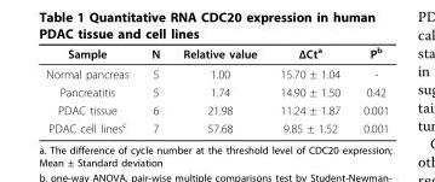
<table><thead><tr><td>Sample</td><td>N</td><td>Relative value</td><td>ΔCt<sup>a</sup></td><td>P<sup>b</sup></td></tr></thead><tbody><tr><td>Normal pancreas</td><td>5</td><td>1.00</td><td>15.70 ± 1.04</td><td>-</td></tr><tr><td>Pancreatitis</td><td>5</td><td>1.74</td><td>14.90 ± 1.50</td><td>0.42</td></tr><tr><td>PDAC tissue</td><td>6</td><td>21.98</td><td>11.24 ± 1.87</td><td>0.001</td></tr><tr><td>PDAC cell lines<sup>c</sup></td><td>7</td><td>57.68</td><td>9.85 ± 1.52</td><td>0.001</td></tr></tbody></table>